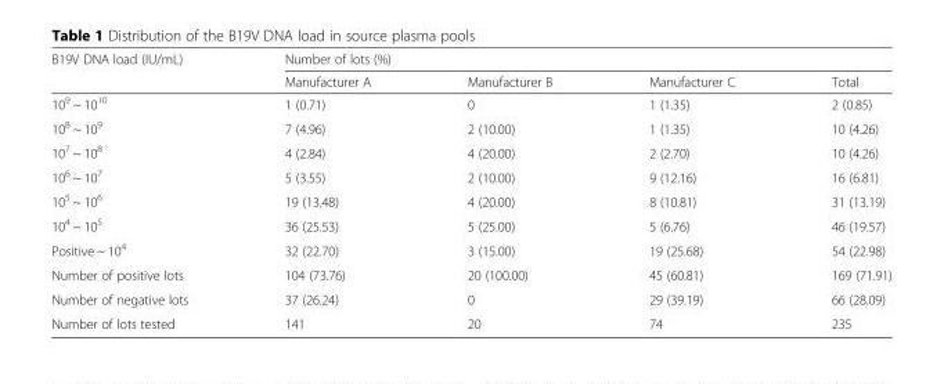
<table><thead><tr><td rowspan="2">B19V DNA load (IU/mL)</td><td colspan="4">Number of lots (%)</td></tr><tr><td>Manufacturer A</td><td>Manufacturer B</td><td>Manufacturer C</td><td>Total</td></tr></thead><tbody><tr><td>10<sup>9</sup> ~ 10<sup>10</sup></td><td>1 (0.71)</td><td>0</td><td>1 (1.35)</td><td>2 (0.85)</td></tr><tr><td>10<sup>8</sup> ~ 10<sup>9</sup></td><td>7 (4.96)</td><td>2 (10.00)</td><td>1 (1.35)</td><td>10 (4.26)</td></tr><tr><td>10<sup>7</sup> ~ 10<sup>8</sup></td><td>4 (2.84)</td><td>4 (20.00)</td><td>2 (2.70)</td><td>10 (4.26)</td></tr><tr><td>10<sup>6</sup> ~ 10<sup>7</sup></td><td>5 (3.55)</td><td>2 (10.00)</td><td>9 (12.16)</td><td>16 (6.81)</td></tr><tr><td>10<sup>5</sup> ~ 10<sup>6</sup></td><td>19 (13.48)</td><td>4 (20.00)</td><td>8 (10.81)</td><td>31 (13.19)</td></tr><tr><td>10<sup>4</sup> ~ 10<sup>5</sup></td><td>36 (25.53)</td><td>5 (25.00)</td><td>5 (6.76)</td><td>46 (19.57)</td></tr><tr><td>Positive ~ 10<sup>4</sup></td><td>32 (22.70)</td><td>3 (15.00)</td><td>19 (25.68)</td><td>54 (22.98)</td></tr><tr><td>Number of positive lots</td><td>104 (73.76)</td><td>20 (100.00)</td><td>45 (60.81)</td><td>169 (71.91)</td></tr><tr><td>Number of negative lots</td><td>37 (26.24)</td><td>0</td><td>29 (39.19)</td><td>66 (28.09)</td></tr><tr><td>Number of lots tested</td><td>141</td><td>20</td><td>74</td><td>235</td></tr></tbody></table>